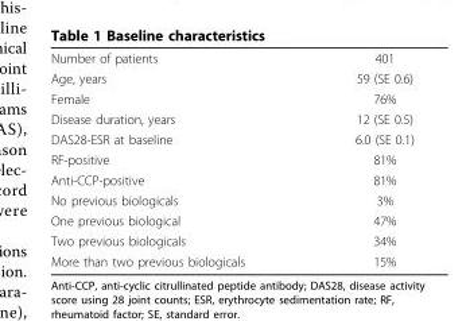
<table><tbody><tr><td>Number of patients</td><td>401</td></tr><tr><td>Age, years</td><td>59 (SE 0.6)</td></tr><tr><td>Female</td><td>76%</td></tr><tr><td>Disease duration, years</td><td>12 (SE 0.5)</td></tr><tr><td>DAS28-ESR at baseline</td><td>6.0 (SE 0.1)</td></tr><tr><td>RF-positive</td><td>81%</td></tr><tr><td>Anti-CCP-positive</td><td>81%</td></tr><tr><td>No previous biologicals</td><td>3%</td></tr><tr><td>One previous biological</td><td>47%</td></tr><tr><td>Two previous biologicals</td><td>34%</td></tr><tr><td>More than two previous biologicals</td><td>15%</td></tr></tbody></table>